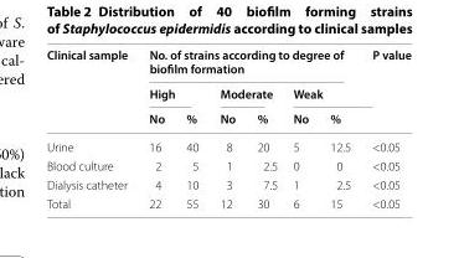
<table><thead><tr><td rowspan="3">Clinical sample</td><td colspan="6">No. of strains according to degree of biofilm formation</td><td rowspan="3">P value</td></tr><tr><td colspan="2">High</td><td colspan="2">Moderate</td><td colspan="2">Weak</td></tr><tr><td>No</td><td>%</td><td>No</td><td>%</td><td>No</td><td>%</td></tr></thead><tbody><tr><td>Urine</td><td>16</td><td>40</td><td>8</td><td>20</td><td>5</td><td>12.5</td><td>&lt;0.05</td></tr><tr><td>Blood culture</td><td>2</td><td>5</td><td>1</td><td>2.5</td><td>0</td><td>0</td><td>&lt;0.05</td></tr><tr><td>Dialysis catheter</td><td>4</td><td>10</td><td>3</td><td>7.5</td><td>1</td><td>2.5</td><td>&lt;0.05</td></tr><tr><td>Total</td><td>22</td><td>55</td><td>12</td><td>30</td><td>6</td><td>15</td><td>&lt;0.05</td></tr></tbody></table>